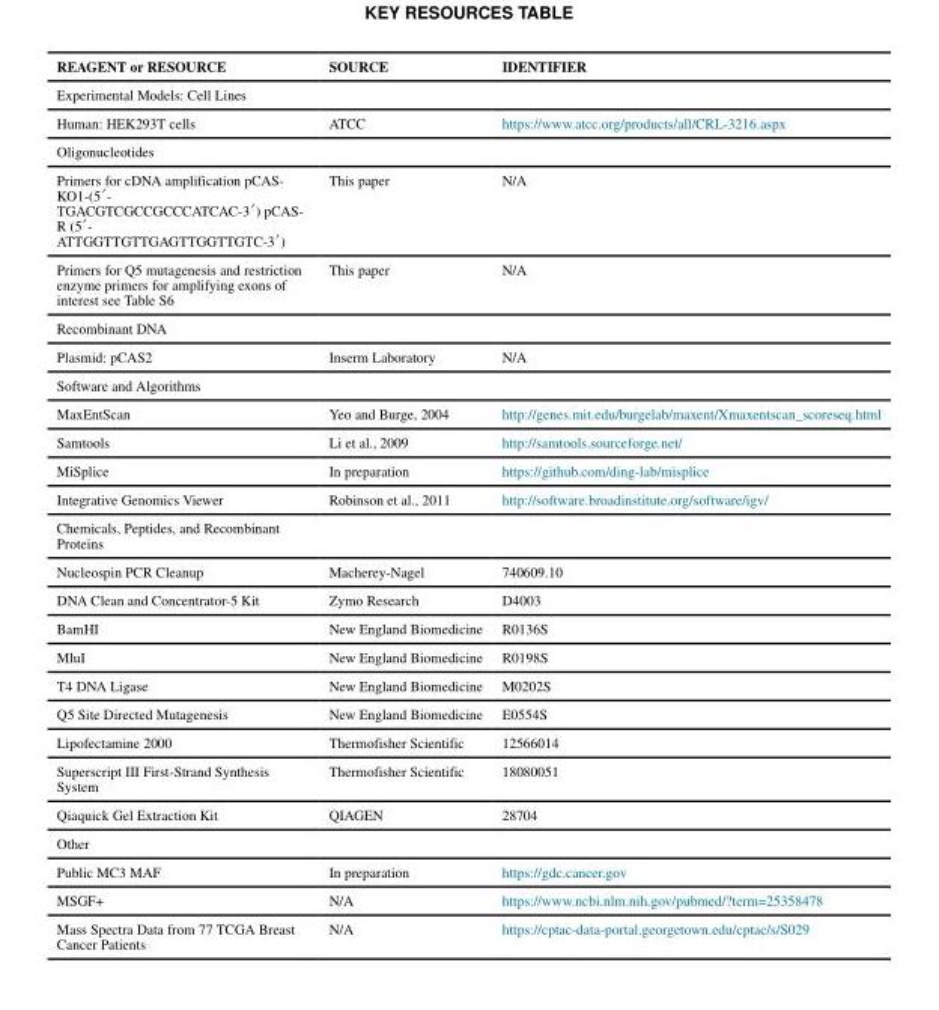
<table><thead><tr><td>REAGENT or RESOURCE</td><td>SOURCE</td><td>IDENTIFIER</td></tr></thead><tbody><tr><td colspan="3">Experimental Models: Cell Lines</td></tr><tr><td>Human: HEK293T cells</td><td>ATCC</td><td>https://www.atcc.org/products/all/CRL-3216.aspx</td></tr><tr><td colspan="3">Oligonucleotides</td></tr><tr><td>Primers for cDNA amplification pCAS- KO1-(5′- TGACGTCGCCGCCCATCAC-3′) pCAS- R (5′- ATTGGTTGTTGAGTTGGTTGTC-3′)</td><td>This paper</td><td>N/A</td></tr><tr><td>Primers for Q5 mutagenesis and restriction enzyme primers for amplifying exons of interest see Table S6</td><td>This paper</td><td>N/A</td></tr><tr><td colspan="3">Recombinant DNA</td></tr><tr><td>Plasmid: pCAS2</td><td>Inserm Laboratory</td><td>N/A</td></tr><tr><td colspan="3">Software and Algorithms</td></tr><tr><td>MaxEntScan</td><td>Yeo and Burge, 2004</td><td>http://genes.mit.edu/burgelab/maxent/Xmaxentscan_scoreseq.html</td></tr><tr><td>Samtools</td><td>Li et al., 2009</td><td>http://samtools.sourceforge.net/</td></tr><tr><td>MiSplice</td><td>In preparation</td><td>https://github.com/ding-lab/misplice</td></tr><tr><td>Integrative Genomics Viewer</td><td>Robinson et al., 2011</td><td>http://software.broadinstitute.org/software/igv/</td></tr><tr><td colspan="3">Chemicals, Peptides, and Recombinant Proteins</td></tr><tr><td>Nucleospin PCR Cleanup</td><td>Macherey-Nagel</td><td>740609.10</td></tr><tr><td>DNA Clean and Concentrator-5 Kit</td><td>Zymo Research</td><td>D4003</td></tr><tr><td>BamHI</td><td>New England Biomedicine</td><td>R0136S</td></tr><tr><td>MluI</td><td>New England Biomedicine</td><td>R0198S</td></tr><tr><td>T4 DNA Ligase</td><td>New England Biomedicine</td><td>M0202S</td></tr><tr><td>Q5 Site Directed Mutagenesis</td><td>New England Biomedicine</td><td>E0554S</td></tr><tr><td>Lipofectamine 2000</td><td>Thermofisher Scientific</td><td>12566014</td></tr><tr><td>Superscript III First-Strand Synthesis System</td><td>Thermofisher Scientific</td><td>18080051</td></tr><tr><td>Qiaquick Gel Extraction Kit</td><td>QIAGEN</td><td>28704</td></tr><tr><td colspan="3">Other</td></tr><tr><td>Public MC3 MAF</td><td>In preparation</td><td>https://gdc.cancer.gov</td></tr><tr><td>MSGF+</td><td>N/A</td><td>https://www.ncbi.nlm.nih.gov/pubmed/?term=25358478</td></tr><tr><td>Mass Spectra Data from 77 TCGA Breast Cancer Patients</td><td>N/A</td><td>https://cptac-data-portal.georgetown.edu/cptac/s/S029</td></tr></tbody></table>